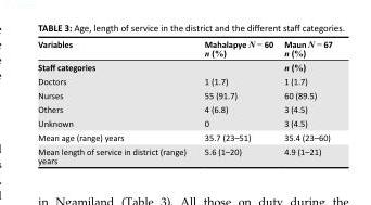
<table><thead><tr><td>Variables</td><td>Mahalapye N = 60 n (%)</td><td>Maun N = 67 n (%)</td></tr></thead><tbody><tr><td>Staff categories</td><td></td><td>n (%)</td></tr><tr><td>Doctors</td><td>1 (1.7)</td><td>1 (1.7)</td></tr><tr><td>Nurses</td><td>55 (91.7)</td><td>60 (89.5)</td></tr><tr><td>Others</td><td>4 (6.8)</td><td>3 (4.5)</td></tr><tr><td>Unknown</td><td>0</td><td>3 (4.5)</td></tr><tr><td>Mean age (range) years</td><td>35.7 (23–51)</td><td>35.4 (23–60)</td></tr><tr><td>Mean length of service in district (range) years</td><td>5.6 (1–20)</td><td>4.9 (1–21)</td></tr></tbody></table>